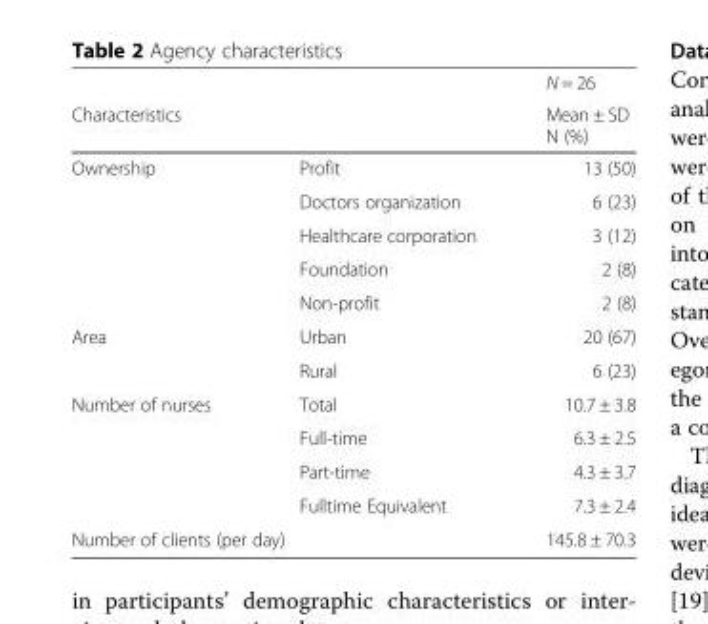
<table><thead><tr><td></td><td></td><td rowspan="2">N = 26 Mean ± SD N (%)</td></tr><tr><td colspan="2">Characteristics</td></tr></thead><tbody><tr><td rowspan="5">Ownership</td><td>Profit</td><td>13 (50)</td></tr><tr><td>Doctors organization</td><td>6 (23)</td></tr><tr><td>Healthcare corporation</td><td>3 (12)</td></tr><tr><td>Foundation</td><td>2 (8)</td></tr><tr><td>Non-profit</td><td>2 (8)</td></tr><tr><td rowspan="2">Area</td><td>Urban</td><td>20 (67)</td></tr><tr><td>Rural</td><td>6 (23)</td></tr><tr><td rowspan="4">Number of nurses</td><td>Total</td><td>10.7 ± 3.8</td></tr><tr><td>Full-time</td><td>6.3 ± 2.5</td></tr><tr><td>Part-time</td><td>4.3 ± 3.7</td></tr><tr><td>Fulltime Equivalent</td><td>7.3 ± 2.4</td></tr><tr><td colspan="2">Number of clients (per day)</td><td>145.8 ± 70.3</td></tr></tbody></table>